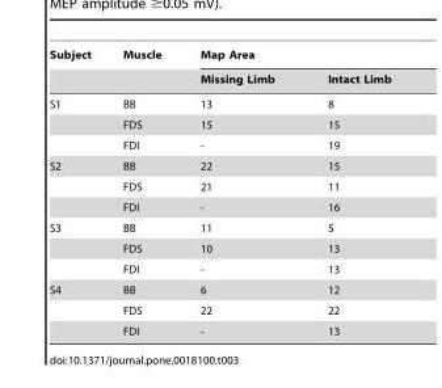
<table><thead><tr><td rowspan="2">Subject</td><td rowspan="2">Muscle</td><td colspan="2">Map Area</td></tr><tr><td>Missing Limb</td><td>Intact Limb</td></tr></thead><tbody><tr><td rowspan="3">S1</td><td>BB</td><td>13</td><td>8</td></tr><tr><td>FDS</td><td>15</td><td>15</td></tr><tr><td>FDI</td><td>-</td><td>19</td></tr><tr><td rowspan="3">S2</td><td>BB</td><td>22</td><td>15</td></tr><tr><td>FDS</td><td>21</td><td>11</td></tr><tr><td>FDI</td><td>-</td><td>16</td></tr><tr><td rowspan="3">S3</td><td>BB</td><td>11</td><td>5</td></tr><tr><td>FDS</td><td>10</td><td>13</td></tr><tr><td>FDI</td><td>-</td><td>13</td></tr><tr><td rowspan="3">S4</td><td>BB</td><td>6</td><td>12</td></tr><tr><td>FDS</td><td>22</td><td>22</td></tr><tr><td>FDI</td><td>-</td><td>13</td></tr></tbody></table>